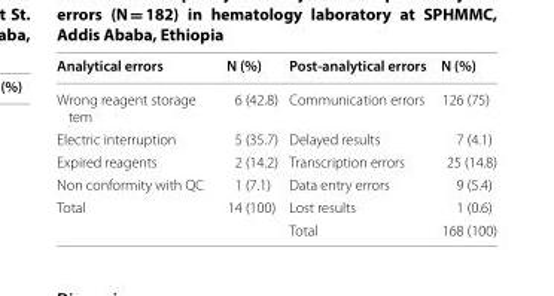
<table><thead><tr><td>Analytical errors</td><td>N (%)</td><td>Post-analytical errors</td><td>N (%)</td></tr></thead><tbody><tr><td>Wrong reagent storage tem</td><td>6 (42.8)</td><td>Communication errors</td><td>126 (75)</td></tr><tr><td>Electric interruption</td><td>5 (35.7)</td><td>Delayed results</td><td>7 (4.1)</td></tr><tr><td>Expired reagents</td><td>2 (14.2)</td><td>Transcription errors</td><td>25 (14.8)</td></tr><tr><td>Non conformity with QC</td><td>1 (7.1)</td><td>Data entry errors</td><td>9 (5.4)</td></tr><tr><td rowspan="2">Total</td><td>14 (100)</td><td>Lost results</td><td>1 (0.6)</td></tr><tr><td></td><td>Total</td><td>168 (100)</td></tr></tbody></table>